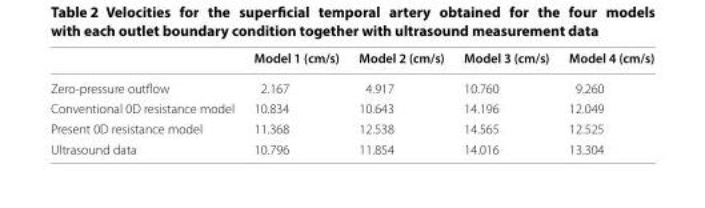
<table><thead><tr><td></td><td>Model 1 (cm/s)</td><td>Model 2 (cm/s)</td><td>Model 3 (cm/s)</td><td>Model 4 (cm/s)</td></tr></thead><tbody><tr><td>Zero-pressure outflow</td><td>2.167</td><td>4.917</td><td>10.760</td><td>9.260</td></tr><tr><td>Conventional 0D resistance model</td><td>10.834</td><td>10.643</td><td>14.196</td><td>12.049</td></tr><tr><td>Present 0D resistance model</td><td>11.368</td><td>12.538</td><td>14.565</td><td>12.525</td></tr><tr><td>Ultrasound data</td><td>10.796</td><td>11.854</td><td>14.016</td><td>13.304</td></tr></tbody></table>